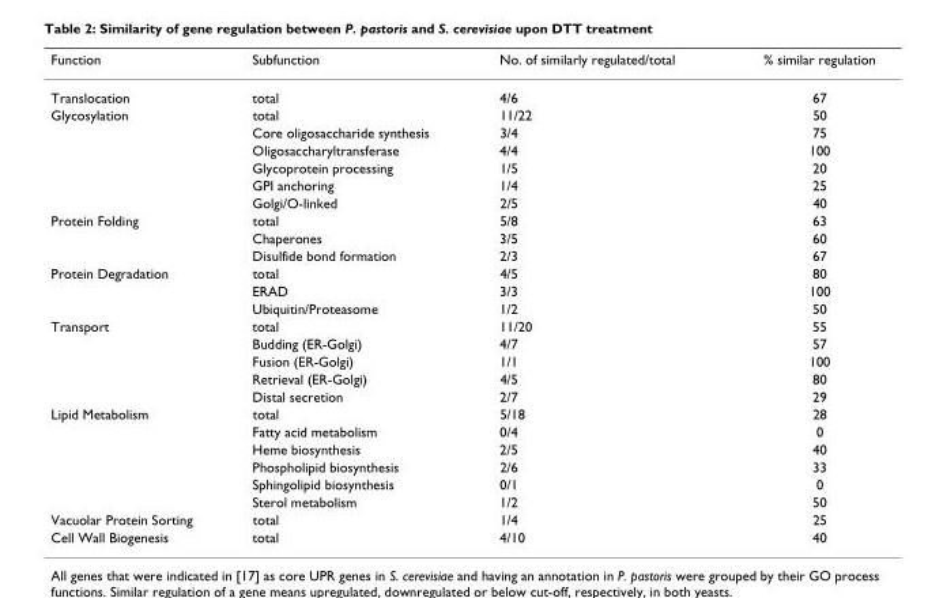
<table><thead><tr><td>Function</td><td>Subfunction</td><td>No. of similarly regulated/total</td><td>% similar regulation</td></tr></thead><tbody><tr><td>Translocation</td><td>total</td><td>4/6</td><td>67</td></tr><tr><td rowspan="6">Glycosylation</td><td>total</td><td>11/22</td><td>50</td></tr><tr><td>Core oligosaccharide synthesis</td><td>3/4</td><td>75</td></tr><tr><td>Oligosaccharyltransferase</td><td>4/4</td><td>100</td></tr><tr><td>Glycoprotein processing</td><td>1/5</td><td>20</td></tr><tr><td>GPI anchoring</td><td>1/4</td><td>25</td></tr><tr><td>Golgi/O-linked</td><td>2/5</td><td>40</td></tr><tr><td rowspan="3">Protein Folding</td><td>total</td><td>5/8</td><td>63</td></tr><tr><td>Chaperones</td><td>3/5</td><td>60</td></tr><tr><td>Disulfide bond formation</td><td>2/3</td><td>67</td></tr><tr><td rowspan="3">Protein Degradation</td><td>total</td><td>4/5</td><td>80</td></tr><tr><td>ERAD</td><td>3/3</td><td>100</td></tr><tr><td>Ubiquitin/Proteasome</td><td>1/2</td><td>50</td></tr><tr><td rowspan="5">Transport</td><td>total</td><td>11/20</td><td>55</td></tr><tr><td>Budding (ER-Golgi)</td><td>4/7</td><td>57</td></tr><tr><td>Fusion (ER-Golgi)</td><td>1/1</td><td>100</td></tr><tr><td>Retrieval (ER-Golgi)</td><td>4/5</td><td>80</td></tr><tr><td>Distal secretion</td><td>2/7</td><td>29</td></tr><tr><td rowspan="6">Lipid Metabolism</td><td>total</td><td>5/18</td><td>28</td></tr><tr><td>Fatty acid metabolism</td><td>0/4</td><td>0</td></tr><tr><td>Heme biosynthesis</td><td>2/5</td><td>40</td></tr><tr><td>Phospholipid biosynthesis</td><td>2/6</td><td>33</td></tr><tr><td>Sphingolipid biosynthesis</td><td>0/1</td><td>0</td></tr><tr><td>Sterol metabolism</td><td>1/2</td><td>50</td></tr><tr><td>Vacuolar Protein Sorting</td><td>total</td><td>1/4</td><td>25</td></tr><tr><td>Cell Wall Biogenesis</td><td>total</td><td>4/10</td><td>40</td></tr></tbody></table>